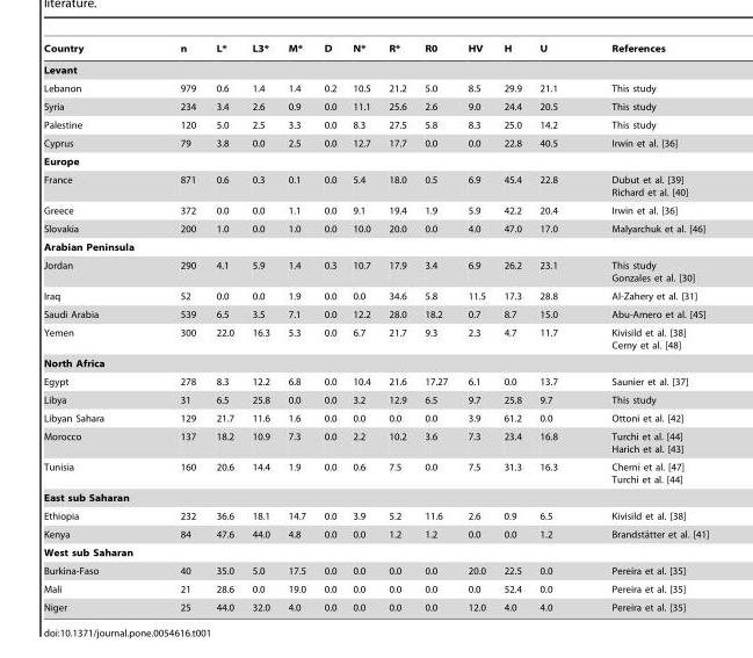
<table><thead><tr><td>Country</td><td>n</td><td>L*</td><td>L3*</td><td>M*</td><td>D</td><td>N*</td><td>R*</td><td>R0</td><td>HV</td><td>H</td><td>U</td><td>References</td></tr></thead><tbody><tr><td colspan="13">Levant</td></tr><tr><td>Lebanon</td><td>979</td><td>0.6</td><td>1.4</td><td>1.4</td><td>0.2</td><td>10.5</td><td>21.2</td><td>5.0</td><td>8.5</td><td>29.9</td><td>21.1</td><td>This study</td></tr><tr><td>Syria</td><td>234</td><td>3.4</td><td>2.6</td><td>0.9</td><td>0.0</td><td>11.1</td><td>25.6</td><td>2.6</td><td>9.0</td><td>24.4</td><td>20.5</td><td>This study</td></tr><tr><td>Palestine</td><td>120</td><td>5.0</td><td>2.5</td><td>3.3</td><td>0.0</td><td>8.3</td><td>27.5</td><td>5.8</td><td>8.3</td><td>25.0</td><td>14.2</td><td>This study</td></tr><tr><td>Cyprus</td><td>79</td><td>3.8</td><td>0.0</td><td>2.5</td><td>0.0</td><td>12.7</td><td>17.7</td><td>0.0</td><td>0.0</td><td>22.8</td><td>40.5</td><td>Irwin et al. [36]</td></tr><tr><td colspan="13">Europe</td></tr><tr><td>France</td><td>871</td><td>0.6</td><td>0.3</td><td>0.1</td><td>0.0</td><td>5.4</td><td>18.0</td><td>0.5</td><td>6.9</td><td>45.4</td><td>22.8</td><td>Dubut et al. [39] Richard et al. [40]</td></tr><tr><td>Greece</td><td>372</td><td>0.0</td><td>0.0</td><td>1.1</td><td>0.0</td><td>9.1</td><td>19.4</td><td>1.9</td><td>5.9</td><td>42.2</td><td>20.4</td><td>Irwin et al. [36]</td></tr><tr><td>Slovakia</td><td>200</td><td>1.0</td><td>0.0</td><td>1.0</td><td>0.0</td><td>10.0</td><td>20.0</td><td>0.0</td><td>4.0</td><td>47.0</td><td>17.0</td><td>Malyarchuk et al. [46]</td></tr><tr><td colspan="13">Arabian Peninsula</td></tr><tr><td>Jordan</td><td>290</td><td>4.1</td><td>5.9</td><td>1.4</td><td>0.3</td><td>10.7</td><td>17.9</td><td>3.4</td><td>6.9</td><td>26.2</td><td>23.1</td><td>This study Gonzales et al. [30]</td></tr><tr><td>Iraq</td><td>52</td><td>0.0</td><td>0.0</td><td>1.9</td><td>0.0</td><td>0.0</td><td>34.6</td><td>5.8</td><td>11.5</td><td>17.3</td><td>28.8</td><td>Al-Zahery et al. [31]</td></tr><tr><td>Saudi Arabia</td><td>539</td><td>6.5</td><td>3.5</td><td>7.1</td><td>0.0</td><td>12.2</td><td>28.0</td><td>18.2</td><td>0.7</td><td>8.7</td><td>15.0</td><td>Abu-Amero et al. [45]</td></tr><tr><td>Yemen</td><td>300</td><td>22.0</td><td>16.3</td><td>5.3</td><td>0.0</td><td>6.7</td><td>21.7</td><td>9.3</td><td>2.3</td><td>4.7</td><td>11.7</td><td>Kivisild et al. [38] Cerny et al. [48]</td></tr><tr><td colspan="13">North Africa</td></tr><tr><td>Egypt</td><td>278</td><td>8.3</td><td>12.2</td><td>6.8</td><td>0.0</td><td>10.4</td><td>21.6</td><td>17.27</td><td>6.1</td><td>0.0</td><td>13.7</td><td>Saunier et al. [37]</td></tr><tr><td>Libya</td><td>31</td><td>6.5</td><td>25.8</td><td>0.0</td><td>0.0</td><td>3.2</td><td>12.9</td><td>6.5</td><td>9.7</td><td>25.8</td><td>9.7</td><td>This study</td></tr><tr><td>Libyan Sahara</td><td>129</td><td>21.7</td><td>11.6</td><td>1.6</td><td>0.0</td><td>0.0</td><td>0.0</td><td>0.0</td><td>3.9</td><td>61.2</td><td>0.0</td><td>Ottoni et al. [42]</td></tr><tr><td>Morocco</td><td>137</td><td>18.2</td><td>10.9</td><td>7.3</td><td>0.0</td><td>2.2</td><td>10.2</td><td>3.6</td><td>7.3</td><td>23.4</td><td>16.8</td><td>Turchi et al. [44] Harich et al. [43]</td></tr><tr><td>Tunisia</td><td>160</td><td>20.6</td><td>14.4</td><td>1.9</td><td>0.0</td><td>0.6</td><td>7.5</td><td>0.0</td><td>7.5</td><td>31.3</td><td>16.3</td><td>Cherni et al. [47] Turchi et al. [44]</td></tr><tr><td colspan="13">East sub Saharan</td></tr><tr><td>Ethiopia</td><td>232</td><td>36.6</td><td>18.1</td><td>14.7</td><td>0.0</td><td>3.9</td><td>5.2</td><td>11.6</td><td>2.6</td><td>0.9</td><td>6.5</td><td>Kivisild et al. [38]</td></tr><tr><td>Kenya</td><td>84</td><td>47.6</td><td>44.0</td><td>4.8</td><td>0.0</td><td>0.0</td><td>1.2</td><td>1.2</td><td>0.0</td><td>0.0</td><td>1.2</td><td>Brandsta¨tter et al. [41]</td></tr><tr><td colspan="13">West sub Saharan</td></tr><tr><td>Burkina-Faso</td><td>40</td><td>35.0</td><td>5.0</td><td>17.5</td><td>0.0</td><td>0.0</td><td>0.0</td><td>0.0</td><td>20.0</td><td>22.5</td><td>0.0</td><td>Pereira et al. [35]</td></tr><tr><td>Mali</td><td>21</td><td>28.6</td><td>0.0</td><td>19.0</td><td>0.0</td><td>0.0</td><td>0.0</td><td>0.0</td><td>0.0</td><td>52.4</td><td>0.0</td><td>Pereira et al. [35]</td></tr><tr><td>Niger</td><td>25</td><td>44.0</td><td>32.0</td><td>4.0</td><td>0.0</td><td>0.0</td><td>0.0</td><td>0.0</td><td>12.0</td><td>4.0</td><td>4.0</td><td>Pereira et al. [35]</td></tr></tbody></table>